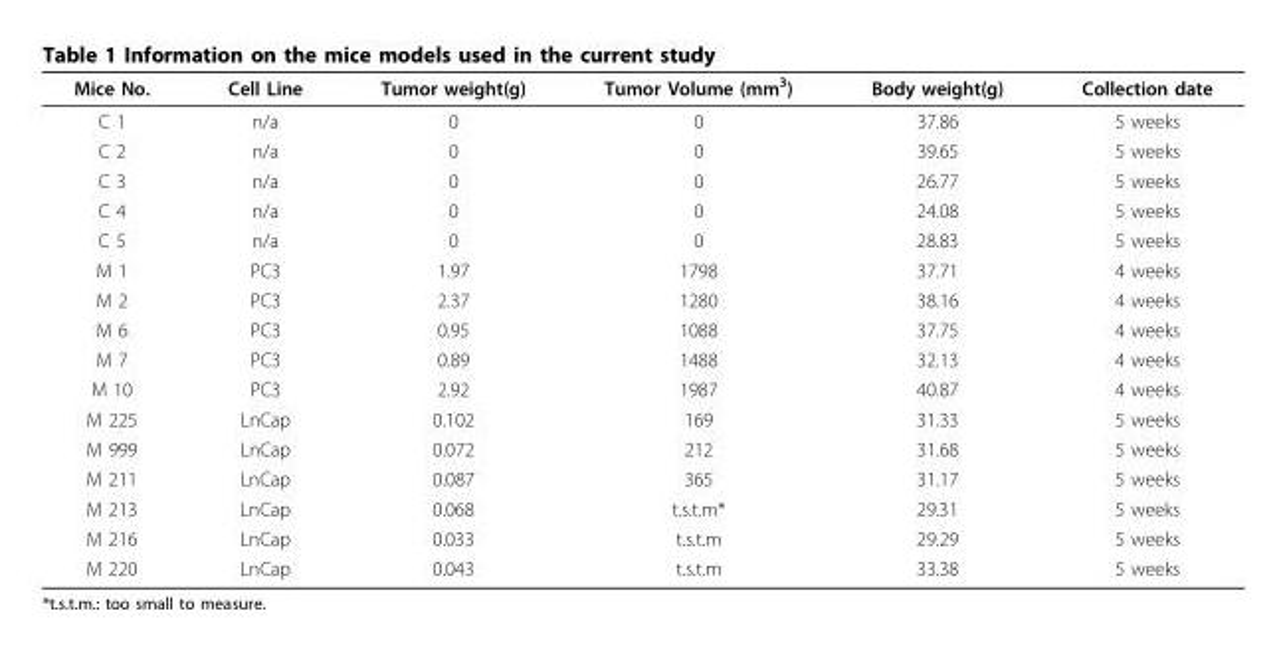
<table><thead><tr><td>Mice No.</td><td>Cell Line</td><td>Tumor weight(g)</td><td>Tumor Volume (mm<sup>3</sup>)</td><td>Body weight(g)</td><td>Collection date</td></tr></thead><tbody><tr><td>C 1</td><td>n/a</td><td>0</td><td>0</td><td>37.86</td><td>5 weeks</td></tr><tr><td>C 2</td><td>n/a</td><td>0</td><td>0</td><td>39.65</td><td>5 weeks</td></tr><tr><td>C 3</td><td>n/a</td><td>0</td><td>0</td><td>26.77</td><td>5 weeks</td></tr><tr><td>C 4</td><td>n/a</td><td>0</td><td>0</td><td>24.08</td><td>5 weeks</td></tr><tr><td>C 5</td><td>n/a</td><td>0</td><td>0</td><td>28.83</td><td>5 weeks</td></tr><tr><td>M 1</td><td>PC3</td><td>1.97</td><td>1798</td><td>37.71</td><td>4 weeks</td></tr><tr><td>M 2</td><td>PC3</td><td>2.37</td><td>1280</td><td>38.16</td><td>4 weeks</td></tr><tr><td>M 6</td><td>PC3</td><td>0.95</td><td>1088</td><td>37.75</td><td>4 weeks</td></tr><tr><td>M 7</td><td>PC3</td><td>0.89</td><td>1488</td><td>32.13</td><td>4 weeks</td></tr><tr><td>M 10</td><td>PC3</td><td>2.92</td><td>1987</td><td>40.87</td><td>4 weeks</td></tr><tr><td>M 225</td><td>LnCap</td><td>0.102</td><td>169</td><td>31.33</td><td>5 weeks</td></tr><tr><td>M 999</td><td>LnCap</td><td>0.072</td><td>212</td><td>31.68</td><td>5 weeks</td></tr><tr><td>M 211</td><td>LnCap</td><td>0.087</td><td>365</td><td>31.17</td><td>5 weeks</td></tr><tr><td>M 213</td><td>LnCap</td><td>0.068</td><td>t.s.t.m*</td><td>29.31</td><td>5 weeks</td></tr><tr><td>M 216</td><td>LnCap</td><td>0.033</td><td>t.s.t.m</td><td>29.29</td><td>5 weeks</td></tr><tr><td>M 220</td><td>LnCap</td><td>0.043</td><td>t.s.t.m</td><td>33.38</td><td>5 weeks</td></tr></tbody></table>